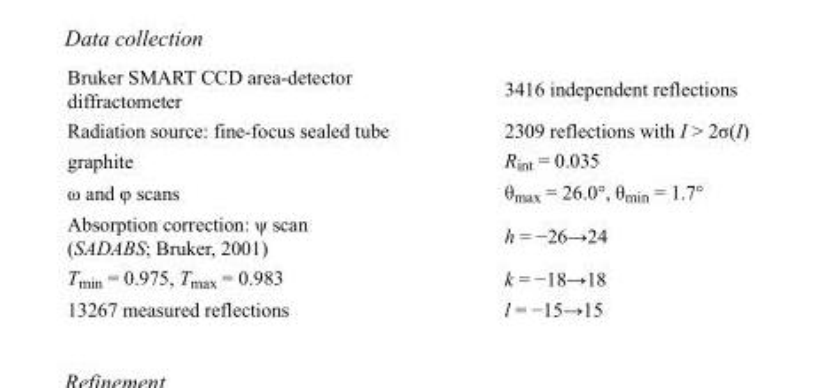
<table><tbody><tr><td>Bruker SMART CCD area-detector diffractometer</td><td>3416 independent reflections</td></tr><tr><td>Radiation source: fine-focus sealed tube</td><td>2309 reflections with I &gt; 2σ(I)</td></tr><tr><td>graphite</td><td>R<sub>int</sub> = 0.035</td></tr><tr><td>ω and φ scans</td><td>θ<sub>max</sub> = 26.0°, θ<sub>min</sub> = 1.7°</td></tr><tr><td>Absorption correction: ψ scan (SADABS; Bruker, 2001)</td><td>h = −26→24</td></tr><tr><td>T<sub>min</sub> = 0.975, T<sub>max</sub> = 0.983</td><td>k = −18→18</td></tr><tr><td>13267 measured reflections</td><td>l = −15→15</td></tr></tbody></table>